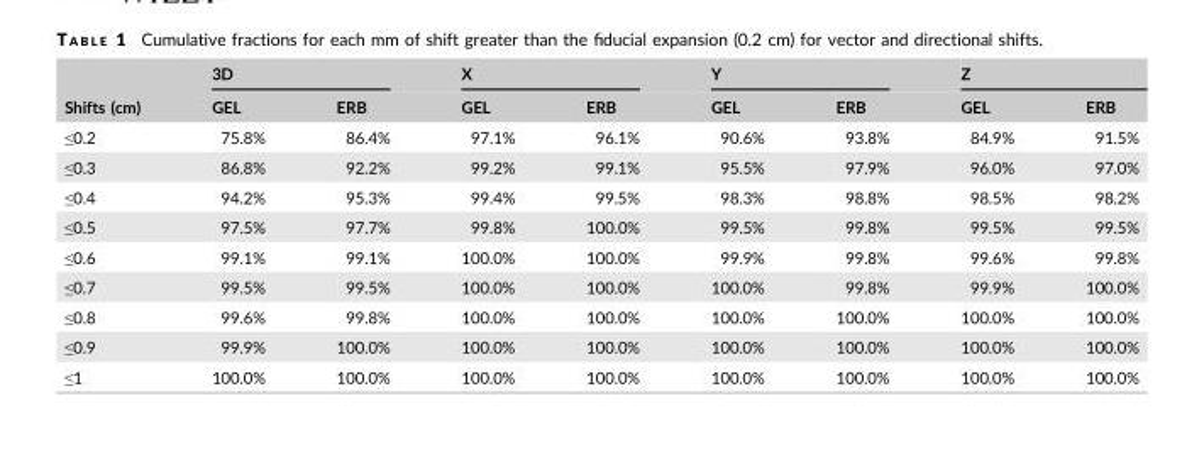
<table><thead><tr><td rowspan="2">Shifts (cm)</td><td colspan="2">3D</td><td colspan="2">X</td><td colspan="2">Y</td><td colspan="2">Z</td></tr><tr><td>GEL</td><td>ERB</td><td>GEL</td><td>ERB</td><td>GEL</td><td>ERB</td><td>GEL</td><td>ERB</td></tr></thead><tbody><tr><td>≤0.2</td><td>75.8%</td><td>86.4%</td><td>97.1%</td><td>96.1%</td><td>90.6%</td><td>93.8%</td><td>84.9%</td><td>91.5%</td></tr><tr><td>≤0.3</td><td>86.8%</td><td>92.2%</td><td>99.2%</td><td>99.1%</td><td>95.5%</td><td>97.9%</td><td>96.0%</td><td>97.0%</td></tr><tr><td>≤0.4</td><td>94.2%</td><td>95.3%</td><td>99.4%</td><td>99.5%</td><td>98.3%</td><td>98.8%</td><td>98.5%</td><td>98.2%</td></tr><tr><td>≤0.5</td><td>97.5%</td><td>97.7%</td><td>99.8%</td><td>100.0%</td><td>99.5%</td><td>99.8%</td><td>99.5%</td><td>99.5%</td></tr><tr><td>≤0.6</td><td>99.1%</td><td>99.1%</td><td>100.0%</td><td>100.0%</td><td>99.9%</td><td>99.8%</td><td>99.6%</td><td>99.8%</td></tr><tr><td>≤0.7</td><td>99.5%</td><td>99.5%</td><td>100.0%</td><td>100.0%</td><td>100.0%</td><td>99.8%</td><td>99.9%</td><td>100.0%</td></tr><tr><td>≤0.8</td><td>99.6%</td><td>99.8%</td><td>100.0%</td><td>100.0%</td><td>100.0%</td><td>100.0%</td><td>100.0%</td><td>100.0%</td></tr><tr><td>≤0.9</td><td>99.9%</td><td>100.0%</td><td>100.0%</td><td>100.0%</td><td>100.0%</td><td>100.0%</td><td>100.0%</td><td>100.0%</td></tr><tr><td>≤1</td><td>100.0%</td><td>100.0%</td><td>100.0%</td><td>100.0%</td><td>100.0%</td><td>100.0%</td><td>100.0%</td><td>100.0%</td></tr></tbody></table>